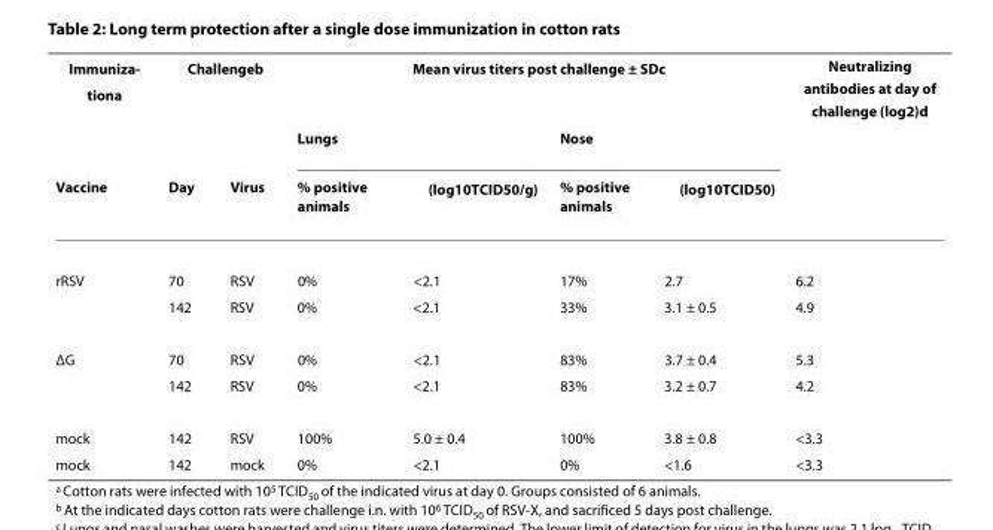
<table><thead><tr><td rowspan="3">Immuniza- tiona Vaccine</td><td colspan="2">Challenge<sup>b</sup></td><td colspan="4">Mean virus titers post challenge ± SD<sup>c</sup></td><td rowspan="3">Neutralizing antibodies at day of challenge (log<sub>2</sub>)<sup>d</sup></td></tr><tr><td rowspan="2">Day</td><td rowspan="2">Virus</td><td colspan="2">Lungs</td><td colspan="2">Nose</td></tr><tr><td>% positive animals</td><td>(log<sub>10</sub>TCID<sub>50</sub>/g)</td><td>% positive animals</td><td>(log<sub>10</sub>TCID<sub>50</sub>)</td></tr></thead><tbody><tr><td rowspan="2">rRSV</td><td>70</td><td>RSV</td><td>0%</td><td>&lt;2.1</td><td>17%</td><td>2.7</td><td>6.2</td></tr><tr><td>142</td><td>RSV</td><td>0%</td><td>&lt;2.1</td><td>33%</td><td>3.1 ± 0.5</td><td>4.9</td></tr><tr><td rowspan="2">ΔG</td><td>70</td><td>RSV</td><td>0%</td><td>&lt;2.1</td><td>83%</td><td>3.7 ± 0.4</td><td>5.3</td></tr><tr><td>142</td><td>RSV</td><td>0%</td><td>&lt;2.1</td><td>83%</td><td>3.2 ± 0.7</td><td>4.2</td></tr><tr><td>mock</td><td>142</td><td>RSV</td><td>100%</td><td>5.0 ± 0.4</td><td>100%</td><td>3.8 ± 0.8</td><td>&lt;3.3</td></tr><tr><td>mock</td><td>142</td><td>mock</td><td>0%</td><td>&lt;2.1</td><td>0%</td><td>&lt;1.6</td><td>&lt;3.3</td></tr></tbody></table>